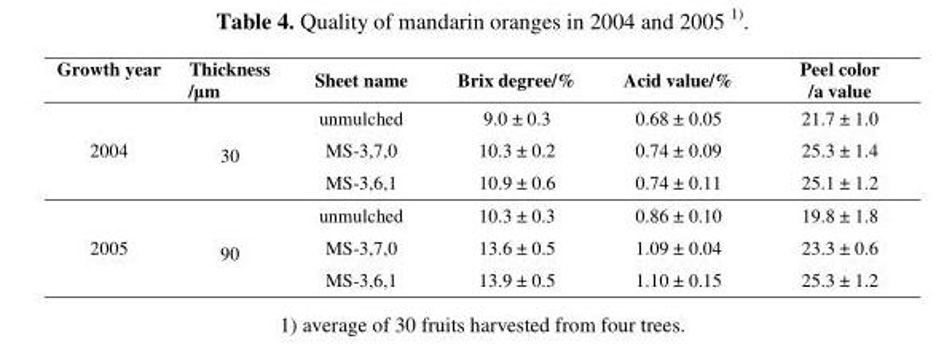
<table><thead><tr><td>Growth year</td><td>Thickness /μm</td><td>Sheet name</td><td>Brix degree/%</td><td>Acid value/%</td><td>Peel color /a value</td></tr></thead><tbody><tr><td rowspan="3">2004</td><td rowspan="3">30</td><td>unmulched</td><td>9.0 ± 0.3</td><td>0.68 ± 0.05</td><td>21.7 ± 1.0</td></tr><tr><td>MS-3,7,0</td><td>10.3 ± 0.2</td><td>0.74 ± 0.09</td><td>25.3 ± 1.4</td></tr><tr><td>MS-3,6,1</td><td>10.9 ± 0.6</td><td>0.74 ± 0.11</td><td>25.1 ± 1.2</td></tr><tr><td rowspan="3">2005</td><td rowspan="3">90</td><td>unmulched</td><td>10.3 ± 0.3</td><td>0.86 ± 0.10</td><td>19.8 ± 1.8</td></tr><tr><td>MS-3,7,0</td><td>13.6 ± 0.5</td><td>1.09 ± 0.04</td><td>23.3 ± 0.6</td></tr><tr><td>MS-3,6,1</td><td>13.9 ± 0.5</td><td>1.10 ± 0.15</td><td>25.3 ± 1.2</td></tr></tbody></table>